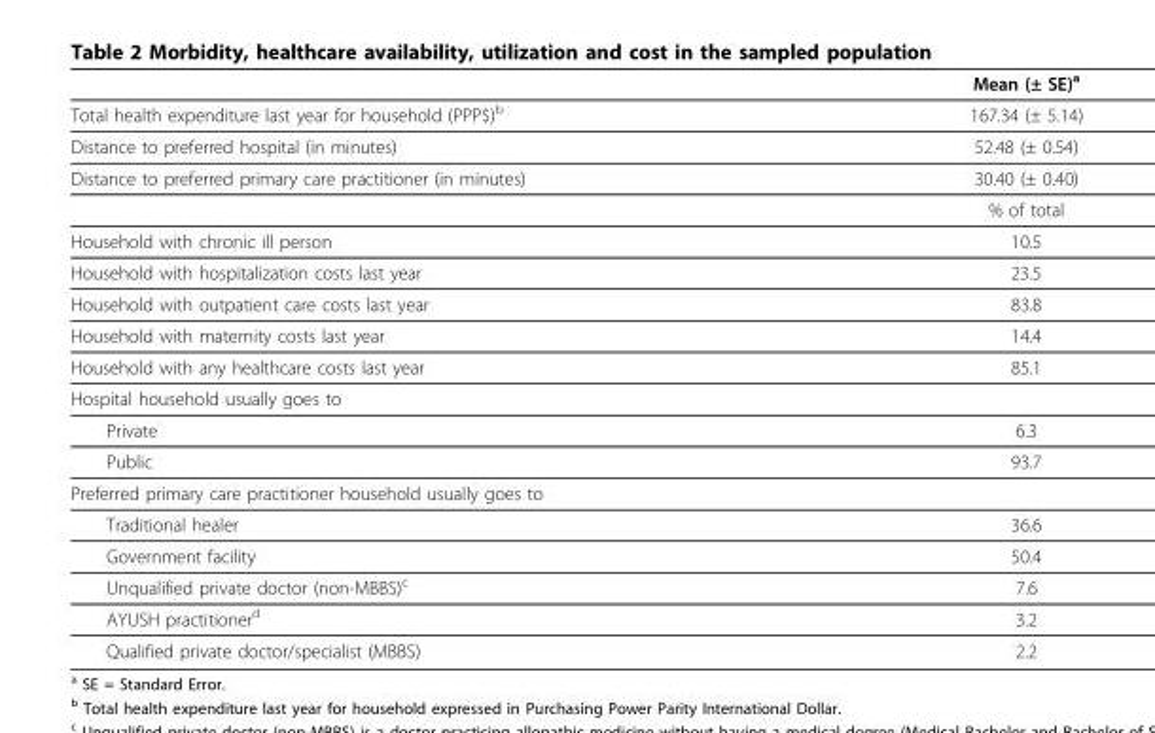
<table><thead><tr><td></td><td>Mean (± SE)<sup>a</sup></td></tr></thead><tbody><tr><td>Total health expenditure last year for household (PPP$)<sup>b</sup></td><td>167.34 (± 5.14)</td></tr><tr><td>Distance to preferred hospital (in minutes)</td><td>52.48 (± 0.54)</td></tr><tr><td rowspan="2">Distance to preferred primary care practitioner (in minutes)</td><td>30.40 (± 0.40)</td></tr><tr><td>% of total</td></tr><tr><td>Household with chronic ill person</td><td>10.5</td></tr><tr><td>Household with hospitalization costs last year</td><td>23.5</td></tr><tr><td>Household with outpatient care costs last year</td><td>83.8</td></tr><tr><td>Household with maternity costs last year</td><td>14.4</td></tr><tr><td>Household with any healthcare costs last year</td><td>85.1</td></tr><tr><td colspan="2">Hospital household usually goes to</td></tr><tr><td>Private</td><td>6.3</td></tr><tr><td>Public</td><td>93.7</td></tr><tr><td colspan="2">Preferred primary care practitioner household usually goes to</td></tr><tr><td>Traditional healer</td><td>36.6</td></tr><tr><td>Government facility</td><td>50.4</td></tr><tr><td>Unqualified private doctor (non-MBBS)<sup>c</sup></td><td>7.6</td></tr><tr><td>AYUSH practitioner<sup>d</sup></td><td>3.2</td></tr><tr><td>Qualified private doctor/specialist (MBBS)</td><td>2.2</td></tr></tbody></table>